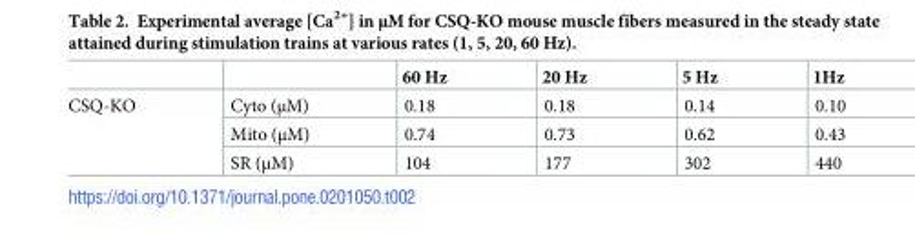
<table><thead><tr><td></td><td></td><td>60 Hz</td><td>20 Hz</td><td>5 Hz</td><td>1Hz</td></tr></thead><tbody><tr><td rowspan="3">CSQ-KO</td><td>Cyto (μM)</td><td>0.18</td><td>0.18</td><td>0.14</td><td>0.10</td></tr><tr><td>Mito (μM)</td><td>0.74</td><td>0.73</td><td>0.62</td><td>0.43</td></tr><tr><td>SR (μM)</td><td>104</td><td>177</td><td>302</td><td>440</td></tr></tbody></table>